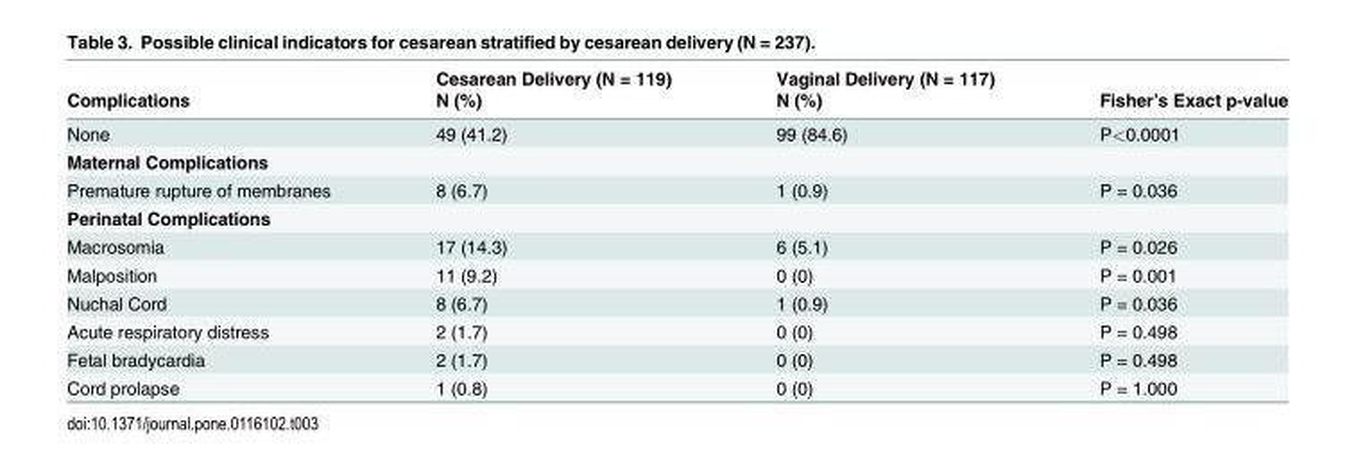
<table><thead><tr><td rowspan="2">Complications</td><td rowspan="2">Cesarean Delivery (N = 119) N (%)</td><td rowspan="2">Vaginal Delivery (N = 117) N (%)</td><td rowspan="2">Fisher’s Exact p-value</td></tr><tr></tr></thead><tbody><tr><td>None</td><td>49 (41.2)</td><td>99 (84.6)</td><td>P&lt;0.0001</td></tr><tr><td colspan="4">Maternal Complications</td></tr><tr><td>Premature rupture of membranes</td><td>8 (6.7)</td><td>1 (0.9)</td><td>P = 0.036</td></tr><tr><td colspan="4">Perinatal Complications</td></tr><tr><td>Macrosomia</td><td>17 (14.3)</td><td>6 (5.1)</td><td>P = 0.026</td></tr><tr><td>Malposition</td><td>11 (9.2)</td><td>0 (0)</td><td>P = 0.001</td></tr><tr><td>Nuchal Cord</td><td>8 (6.7)</td><td>1 (0.9)</td><td>P = 0.036</td></tr><tr><td>Acute respiratory distress</td><td>2 (1.7)</td><td>0 (0)</td><td>P = 0.498</td></tr><tr><td>Fetal bradycardia</td><td>2 (1.7)</td><td>0 (0)</td><td>P = 0.498</td></tr><tr><td>Cord prolapse</td><td>1 (0.8)</td><td>0 (0)</td><td>P = 1.000</td></tr></tbody></table>